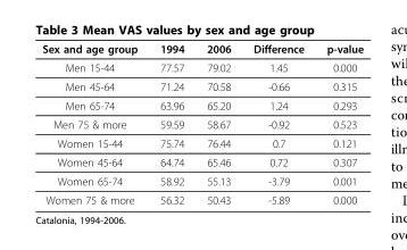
<table><thead><tr><td>Sex and age group</td><td>1994</td><td>2006</td><td>Difference</td><td>p-value</td></tr></thead><tbody><tr><td>Men 15-44</td><td>77.57</td><td>79.02</td><td>1.45</td><td>0.000</td></tr><tr><td>Men 45-64</td><td>71.24</td><td>70.58</td><td>-0.66</td><td>0.315</td></tr><tr><td>Men 65-74</td><td>63.96</td><td>65.20</td><td>1.24</td><td>0.293</td></tr><tr><td>Men 75 &amp; more</td><td>59.59</td><td>58.67</td><td>-0.92</td><td>0.523</td></tr><tr><td>Women 15-44</td><td>75.74</td><td>76.44</td><td>0.7</td><td>0.121</td></tr><tr><td>Women 45-64</td><td>64.74</td><td>65.46</td><td>0.72</td><td>0.307</td></tr><tr><td>Women 65-74</td><td>58.92</td><td>55.13</td><td>-3.79</td><td>0.001</td></tr><tr><td>Women 75 &amp; more</td><td>56.32</td><td>50.43</td><td>-5.89</td><td>0.000</td></tr></tbody></table>